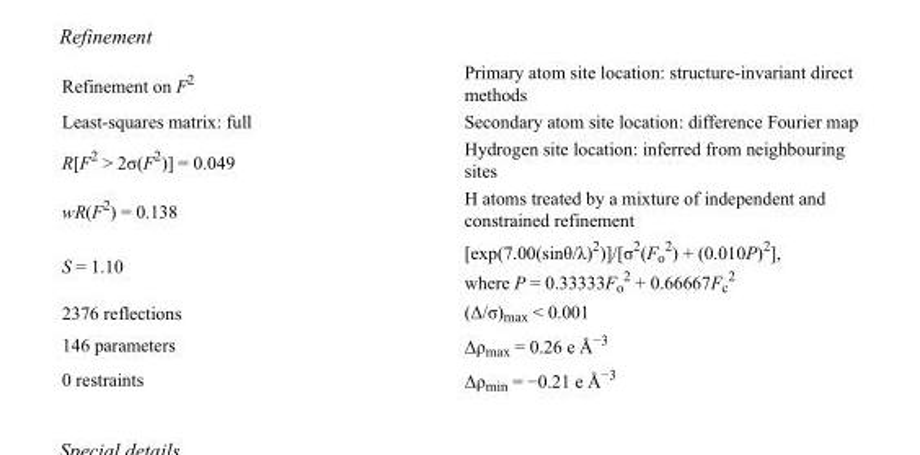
<table><tbody><tr><td>Refinement on F<sup>2</sup></td><td>Primary atom site location: structure-invariant direct methods</td></tr><tr><td>Least-squares matrix: full</td><td>Secondary atom site location: difference Fourier map</td></tr><tr><td>R[F<sup>2</sup> &gt; 2σ(F<sup>2</sup>)] = 0.049</td><td>Hydrogen site location: inferred from neighbouring sites</td></tr><tr><td>wR(F<sup>2</sup>) = 0.138</td><td>H atoms treated by a mixture of independent and constrained refinement</td></tr><tr><td>S = 1.10</td><td>[exp(7.00(sinθ/λ)<sup>2</sup>)]/[σ<sup>2</sup>(F<sub>o</sub> <sup>2</sup>) + (0.010P)<sup>2</sup>], where P = 0.33333F<sub>o</sub> <sup>2</sup> + 0.66667F<sub>c</sub> <sup>2</sup></td></tr><tr><td>2376 reflections</td><td>(Δ/σ)<sub>max</sub> &lt; 0.001</td></tr><tr><td>146 parameters</td><td>Δρ<sub>max</sub> = 0.26 e Å<sup>−3</sup></td></tr><tr><td>0 restraints</td><td>Δρ<sub>min</sub> = −0.21 e Å<sup>−3</sup></td></tr></tbody></table>